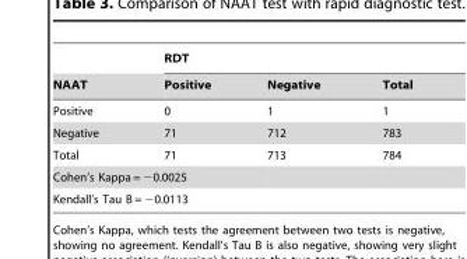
<table><thead><tr><td rowspan="2">NAAT</td><td colspan="3">RDT</td></tr><tr><td>Positive</td><td>Negative</td><td>Total</td></tr></thead><tbody><tr><td>Positive</td><td>0</td><td>1</td><td>1</td></tr><tr><td>Negative</td><td>71</td><td>712</td><td>783</td></tr><tr><td>Total</td><td>71</td><td>713</td><td>784</td></tr><tr><td colspan="4">Cohen’s Kappa = −0.0025</td></tr><tr><td colspan="2">Kendall’s Tau B = −0.0113</td><td></td><td></td></tr></tbody></table>